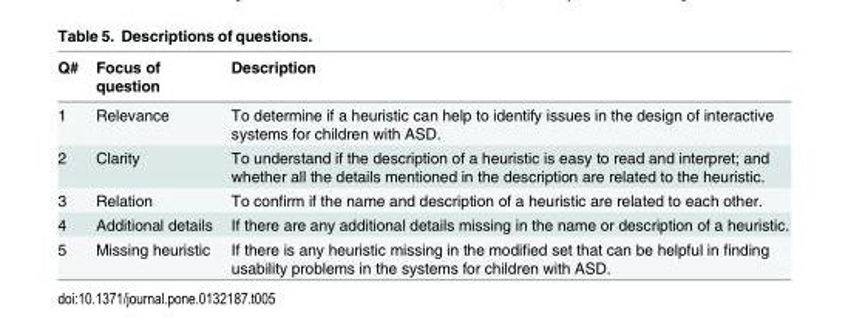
<table><thead><tr><td>Q#</td><td>Focus of question</td><td>Description</td></tr></thead><tbody><tr><td>1</td><td>Relevance</td><td>To determine if a heuristic can help to identify issues in the design of interactive systems for children with ASD.</td></tr><tr><td>2</td><td>Clarity</td><td>To understand if the description of a heuristic is easy to read and interpret; and whether all the details mentioned in the description are related to the heuristic.</td></tr><tr><td>3</td><td>Relation</td><td>To confirm if the name and description of a heuristic are related to each other.</td></tr><tr><td>4</td><td>Additional details</td><td>If there are any additional details missing in the name or description of a heuristic.</td></tr><tr><td>5</td><td>Missing heuristic</td><td>If there is any heuristic missing in the modified set that can be helpful in finding usability problems in the systems for children with ASD.</td></tr></tbody></table>